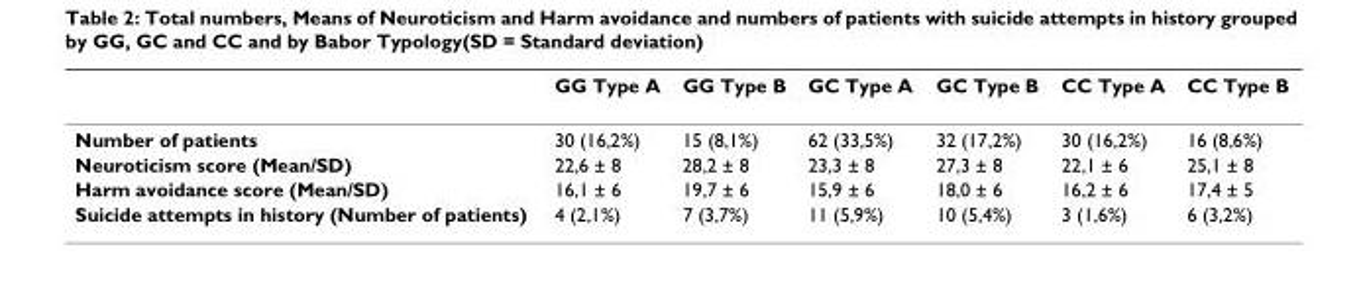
<table><thead><tr><td></td><td>GG Type A</td><td>GG Type B</td><td>GC Type A</td><td>GC Type B</td><td>CC Type A</td><td>CC Type B</td></tr></thead><tbody><tr><td>Number of patients</td><td>30 (16,2%)</td><td>15 (8,1%)</td><td>62 (33,5%)</td><td>32 (17,2%)</td><td>30 (16,2%)</td><td>16 (8,6%)</td></tr><tr><td>Neuroticism score (Mean/SD)</td><td>22,6 ± 8</td><td>28,2 ± 8</td><td>23,3 ± 8</td><td>27,3 ± 8</td><td>22,1 ± 6</td><td>25,1 ± 8</td></tr><tr><td>Harm avoidance score (Mean/SD)</td><td>16,1 ± 6</td><td>19,7 ± 6</td><td>15,9 ± 6</td><td>18,0 ± 6</td><td>16,2 ± 6</td><td>17,4 ± 5</td></tr><tr><td>Suicide attempts in history (Number of patients)</td><td>4 (2,1%)</td><td>7 (3,7%)</td><td>11 (5,9%)</td><td>10 (5,4%)</td><td>3 (1,6%)</td><td>6 (3,2%)</td></tr></tbody></table>